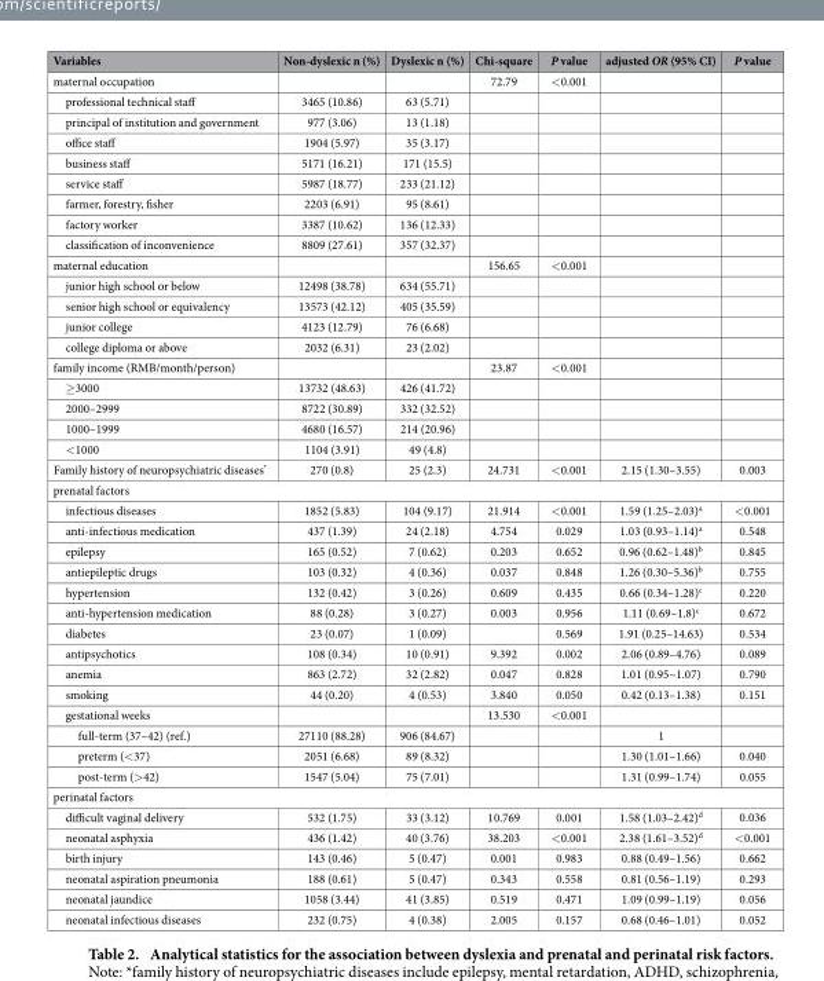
<table><thead><tr><td>Variables</td><td>Non-dyslexic n (%)</td><td>Dyslexic n (%)</td><td>Chi-square</td><td>P value</td><td>adjusted OR (95% CI)</td><td>P value</td></tr></thead><tbody><tr><td>maternal occupation</td><td></td><td></td><td>72.79</td><td>&lt; 0.001</td><td></td><td></td></tr><tr><td>professional technical staff</td><td>3465 (10.86)</td><td>63 (5.71)</td><td></td><td></td><td></td><td></td></tr><tr><td>principal of institution and government</td><td>977 (3.06)</td><td>13 (1.18)</td><td></td><td></td><td></td><td></td></tr><tr><td>office staff</td><td>1904 (5.97)</td><td>35 (3.17)</td><td></td><td></td><td></td><td></td></tr><tr><td>business staff</td><td>5171 (16.21)</td><td>171 (15.5)</td><td></td><td></td><td></td><td></td></tr><tr><td>service staff</td><td>5987 (18.77)</td><td>233 (21.12)</td><td></td><td></td><td></td><td></td></tr><tr><td>farmer, forestry, fisher</td><td>2203 (6.91)</td><td>95 (8.61)</td><td></td><td></td><td></td><td></td></tr><tr><td>factory worker</td><td>3387 (10.62)</td><td>136 (12.33)</td><td></td><td></td><td></td><td></td></tr><tr><td>classification of inconvenience</td><td>8809 (27.61)</td><td>357 (32.37)</td><td></td><td></td><td></td><td></td></tr><tr><td>maternal education</td><td></td><td></td><td>156.65</td><td>&lt; 0.001</td><td></td><td></td></tr><tr><td>junior high school or below</td><td>12498 (38.78)</td><td>634 (55.71)</td><td></td><td></td><td></td><td></td></tr><tr><td>senior high school or equivalency</td><td>13573 (42.12)</td><td>405 (35.59)</td><td></td><td></td><td></td><td></td></tr><tr><td>junior college</td><td>4123 (12.79)</td><td>76 (6.68)</td><td></td><td></td><td></td><td></td></tr><tr><td>college diploma or above</td><td>2032 (6.31)</td><td>23 (2.02)</td><td></td><td></td><td></td><td></td></tr><tr><td>family income (RMB/month/person)</td><td></td><td></td><td>23.87</td><td>&lt; 0.001</td><td></td><td></td></tr><tr><td>≥ 3000</td><td>13732 (48.63)</td><td>426 (41.72)</td><td></td><td></td><td></td><td></td></tr><tr><td>2000–2999</td><td>8722 (30.89)</td><td>332 (32.52)</td><td></td><td></td><td></td><td></td></tr><tr><td>1000–1999</td><td>4680 (16.57)</td><td>214 (20.96)</td><td></td><td></td><td></td><td></td></tr><tr><td>&lt; 1000</td><td>1104 (3.91)</td><td>49 (4.8)</td><td></td><td></td><td></td><td></td></tr><tr><td>Family history of neuropsychiatric diseases*</td><td>270 (0.8)</td><td>25 (2.3)</td><td>24.731</td><td>&lt; 0.001</td><td>2.15 (1.30–3.55)</td><td>0.003</td></tr><tr><td colspan="7">prenatal factors</td></tr><tr><td>infectious diseases</td><td>1852 (5.83)</td><td>104 (9.17)</td><td>21.914</td><td>&lt; 0.001</td><td>1.59 (1.25–2.03)<sup>a</sup></td><td>&lt; 0.001</td></tr><tr><td>anti-infectious medication</td><td>437 (1.39)</td><td>24 (2.18)</td><td>4.754</td><td>0.029</td><td>1.03 (0.93–1.14)<sup>a</sup></td><td>0.548</td></tr><tr><td>epilepsy</td><td>165 (0.52)</td><td>7 (0.62)</td><td>0.203</td><td>0.652</td><td>0.96 (0.62–1.48)<sup>b</sup></td><td>0.845</td></tr><tr><td>antiepileptic drugs</td><td>103 (0.32)</td><td>4 (0.36)</td><td>0.037</td><td>0.848</td><td>1.26 (0.30–5.36)<sup>b</sup></td><td>0.755</td></tr><tr><td>hypertension</td><td>132 (0.42)</td><td>3 (0.26)</td><td>0.609</td><td>0.435</td><td>0.66 (0.34–1.28)<sup>c</sup></td><td>0.220</td></tr><tr><td>anti-hypertension medication</td><td>88 (0.28)</td><td>3 (0.27)</td><td>0.003</td><td>0.956</td><td>1.11 (0.69–1.8)<sup>c</sup></td><td>0.672</td></tr><tr><td>diabetes</td><td>23 (0.07)</td><td>1 (0.09)</td><td></td><td>0.569</td><td>1.91 (0.25–14.63)</td><td>0.534</td></tr><tr><td>antipsychotics</td><td>108 (0.34)</td><td>10 (0.91)</td><td>9.392</td><td>0.002</td><td>2.06 (0.89–4.76)</td><td>0.089</td></tr><tr><td>anemia</td><td>863 (2.72)</td><td>32 (2.82)</td><td>0.047</td><td>0.828</td><td>1.01 (0.95~1.07)</td><td>0.790</td></tr><tr><td>smoking</td><td>44 (0.20)</td><td>4 (0.53)</td><td>3.840</td><td>0.050</td><td>0.42 (0.13–1.38)</td><td>0.151</td></tr><tr><td>gestational weeks</td><td></td><td></td><td>13.530</td><td>&lt; 0.001</td><td></td><td></td></tr><tr><td>full-term (37–42) (ref.)</td><td>27110 (88.28)</td><td>906 (84.67)</td><td></td><td></td><td>1</td><td></td></tr><tr><td>preterm (&lt; 37)</td><td>2051 (6.68)</td><td>89 (8.32)</td><td></td><td></td><td>1.30 (1.01–1.66)</td><td>0.040</td></tr><tr><td>post-term (&gt; 42)</td><td>1547 (5.04)</td><td>75 (7.01)</td><td></td><td></td><td>1.31 (0.99–1.74)</td><td>0.055</td></tr><tr><td colspan="7">perinatal factors</td></tr><tr><td>difficult vaginal delivery</td><td>532 (1.75)</td><td>33 (3.12)</td><td>10.769</td><td>0.001</td><td>1.58 (1.03–2.42)<sup>d</sup></td><td>0.036</td></tr><tr><td>neonatal asphyxia</td><td>436 (1.42)</td><td>40 (3.76)</td><td>38.203</td><td>&lt; 0.001</td><td>2.38 (1.61–3.52)<sup>d</sup></td><td>&lt; 0.001</td></tr><tr><td>birth injury</td><td>143 (0.46)</td><td>5 (0.47)</td><td>0.001</td><td>0.983</td><td>0.88 (0.49–1.56)</td><td>0.662</td></tr><tr><td>neonatal aspiration pneumonia</td><td>188 (0.61)</td><td>5 (0.47)</td><td>0.343</td><td>0.558</td><td>0.81 (0.56–1.19)</td><td>0.293</td></tr><tr><td>neonatal jaundice</td><td>1058 (3.44)</td><td>41 (3.85)</td><td>0.519</td><td>0.471</td><td>1.09 (0.99–1.19)</td><td>0.056</td></tr><tr><td>neonatal infectious diseases</td><td>232 (0.75)</td><td>4 (0.38)</td><td>2.005</td><td>0.157</td><td>0.68 (0.46–1.01)</td><td>0.052</td></tr></tbody></table>